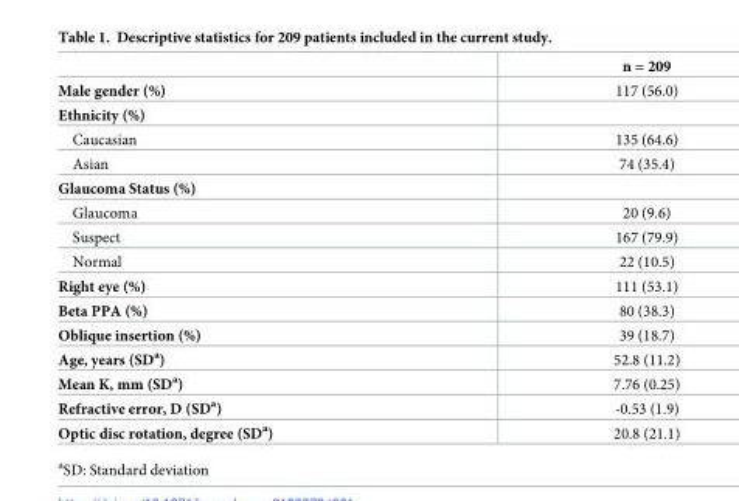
<table><thead><tr><td></td><td>n = 209</td></tr></thead><tbody><tr><td>Male gender (%)</td><td>117 (56.0)</td></tr><tr><td colspan="2">Ethnicity (%)</td></tr><tr><td>Caucasian</td><td>135 (64.6)</td></tr><tr><td>Asian</td><td>74 (35.4)</td></tr><tr><td colspan="2">Glaucoma Status (%)</td></tr><tr><td>Glaucoma</td><td>20 (9.6)</td></tr><tr><td>Suspect</td><td>167 (79.9)</td></tr><tr><td>Normal</td><td>22 (10.5)</td></tr><tr><td>Right eye (%)</td><td>111 (53.1)</td></tr><tr><td>Beta PPA (%)</td><td>80 (38.3)</td></tr><tr><td>Oblique insertion (%)</td><td>39 (18.7)</td></tr><tr><td>Age, years (SD<sup>a</sup>)</td><td>52.8 (11.2)</td></tr><tr><td>Mean K, mm (SD<sup>a</sup>)</td><td>7.76 (0.25)</td></tr><tr><td>Refractive error, D (SD<sup>a</sup>)</td><td>-0.53 (1.9)</td></tr><tr><td>Optic disc rotation, degree (SD<sup>a</sup>)</td><td>20.8 (21.1)</td></tr></tbody></table>